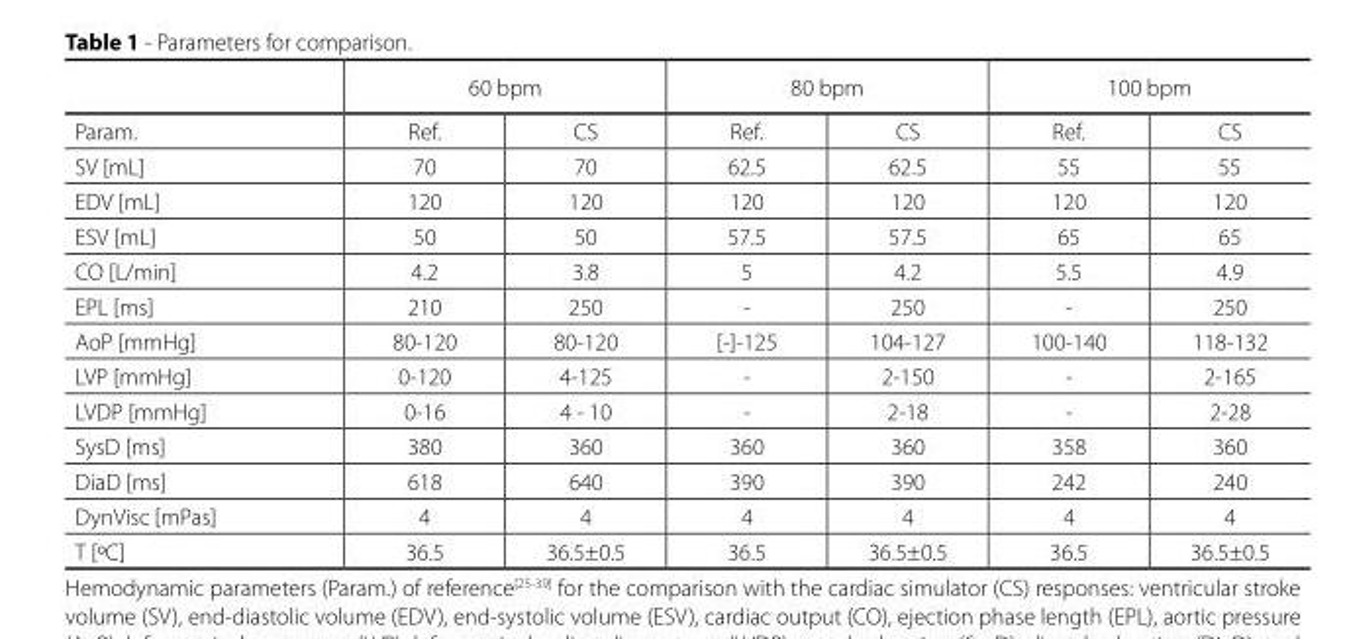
<table><thead><tr><td rowspan="2">Param.</td><td colspan="2">60 bpm</td><td colspan="2">80 bpm</td><td colspan="2">100 bpm</td></tr><tr><td>Ref.</td><td>CS</td><td>Ref.</td><td>CS</td><td>Ref.</td><td>CS</td></tr></thead><tbody><tr><td>SV [mL]</td><td>70</td><td>70</td><td>62.5</td><td>62.5</td><td>55</td><td>55</td></tr><tr><td>EDV [mL]</td><td>120</td><td>120</td><td>120</td><td>120</td><td>120</td><td>120</td></tr><tr><td>ESV [mL]</td><td>50</td><td>50</td><td>57.5</td><td>57.5</td><td>65</td><td>65</td></tr><tr><td>CO [L/min]</td><td>4.2</td><td>3.8</td><td>5</td><td>4.2</td><td>5.5</td><td>4.9</td></tr><tr><td>EPL [ms]</td><td>210</td><td>250</td><td>-</td><td>250</td><td>-</td><td>250</td></tr><tr><td>AoP [mmHg]</td><td>80-120</td><td>80-120</td><td>[-]-125</td><td>104-127</td><td>100-140</td><td>118-132</td></tr><tr><td>LVP [mmHg]</td><td>0-120</td><td>4-125</td><td>-</td><td>2-150</td><td>-</td><td>2-165</td></tr><tr><td>LVDP [mmHg]</td><td>0-16</td><td>4 - 10</td><td>-</td><td>2-18</td><td>-</td><td>2-28</td></tr><tr><td>SysD [ms]</td><td>380</td><td>360</td><td>360</td><td>360</td><td>358</td><td>360</td></tr><tr><td>DiaD [ms]</td><td>618</td><td>640</td><td>390</td><td>390</td><td>242</td><td>240</td></tr><tr><td>DynVisc [mPas]</td><td>4</td><td>4</td><td>4</td><td>4</td><td>4</td><td>4</td></tr><tr><td>T [ºC]</td><td>36.5</td><td>36.5±0.5</td><td>36.5</td><td>36.5±0.5</td><td>36.5</td><td>36.5±0.5</td></tr></tbody></table>